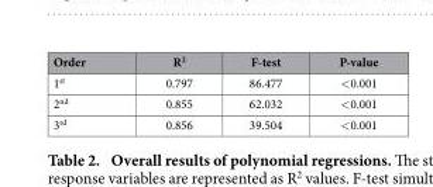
<table><thead><tr><td>Order</td><td>R<sup>2</sup></td><td>F-test</td><td>P-value</td></tr></thead><tbody><tr><td>1<sup>st</sup></td><td>0.797</td><td>86.477</td><td>&lt; 0.001</td></tr><tr><td>2<sup>nd</sup></td><td>0.855</td><td>62.032</td><td>&lt; 0.001</td></tr><tr><td>3<sup>rd</sup></td><td>0.856</td><td>39.504</td><td>&lt; 0.001</td></tr></tbody></table>